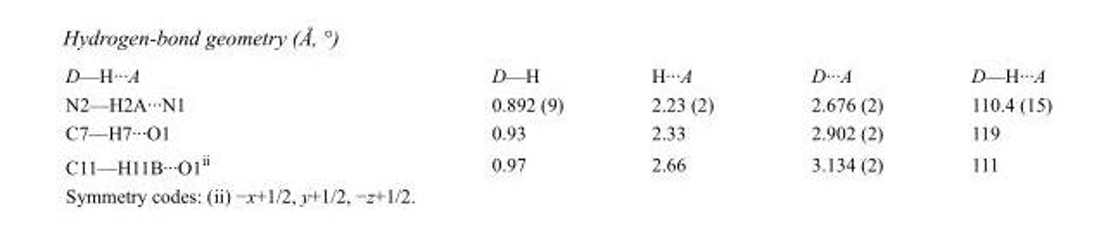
<table><tbody><tr><td>D—H···A</td><td>D—H</td><td>H···A</td><td>D···A</td><td>D—H···A</td></tr><tr><td>N2—H2A···N1</td><td>0.892 (9)</td><td>2.23 (2)</td><td>2.676 (2)</td><td>110.4 (15)</td></tr><tr><td>C7—H7···O1</td><td>0.93</td><td>2.33</td><td>2.902 (2)</td><td>119</td></tr><tr><td>C11—H11B···O1<sup>ii</sup></td><td>0.97</td><td>2.66</td><td>3.134 (2)</td><td>111</td></tr></tbody></table>